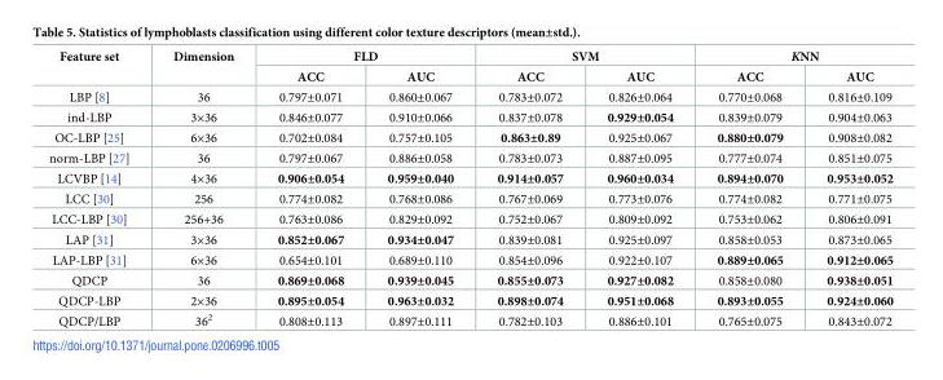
<table><thead><tr><td rowspan="2">Feature set</td><td rowspan="2">Dimension</td><td colspan="2">FLD</td><td colspan="2">SVM</td><td colspan="2">KNN</td></tr><tr><td>ACC</td><td>AUC</td><td>ACC</td><td>AUC</td><td>ACC</td><td>AUC</td></tr></thead><tbody><tr><td>LBP [8]</td><td>36</td><td>0.797±0.071</td><td>0.860±0.067</td><td>0.783±0.072</td><td>0.826±0.064</td><td>0.770±0.068</td><td>0.816±0.109</td></tr><tr><td>ind-LBP</td><td>3×36</td><td>0.846±0.077</td><td>0.910±0.066</td><td>0.837±0.078</td><td>0.929±0.054</td><td>0.839±0.079</td><td>0.904±0.063</td></tr><tr><td>OC-LBP [25]</td><td>6×36</td><td>0.702±0.084</td><td>0.757±0.105</td><td>0.863±0.89</td><td>0.925±0.067</td><td>0.880±0.079</td><td>0.908±0.082</td></tr><tr><td>norm-LBP [27]</td><td>36</td><td>0.797±0.067</td><td>0.886±0.058</td><td>0.783±0.073</td><td>0.887±0.095</td><td>0.777±0.074</td><td>0.851±0.075</td></tr><tr><td>LCVBP [14]</td><td>4×36</td><td>0.906±0.054</td><td>0.959±0.040</td><td>0.914±0.057</td><td>0.960±0.034</td><td>0.894±0.070</td><td>0.953±0.052</td></tr><tr><td>LCC [30]</td><td>256</td><td>0.774±0.082</td><td>0.768±0.086</td><td>0.767±0.069</td><td>0.773±0.076</td><td>0.774±0.082</td><td>0.771±0.075</td></tr><tr><td>LCC-LBP [30]</td><td>256+36</td><td>0.763±0.086</td><td>0.829±0.092</td><td>0.752±0.067</td><td>0.809±0.092</td><td>0.753±0.062</td><td>0.806±0.091</td></tr><tr><td>LAP [31]</td><td>3×36</td><td>0.852±0.067</td><td>0.934±0.047</td><td>0.839±0.081</td><td>0.925±0.097</td><td>0.858±0.053</td><td>0.873±0.065</td></tr><tr><td>LAP-LBP [31]</td><td>6×36</td><td>0.654±0.101</td><td>0.689±0.110</td><td>0.854±0.096</td><td>0.922±0.107</td><td>0.889±0.065</td><td>0.912±0.065</td></tr><tr><td>QDCP</td><td>36</td><td>0.869±0.068</td><td>0.939±0.045</td><td>0.855±0.073</td><td>0.927±0.082</td><td>0.858±0.080</td><td>0.938±0.051</td></tr><tr><td>QDCP-LBP</td><td>2×36</td><td>0.895±0.054</td><td>0.963±0.032</td><td>0.898±0.074</td><td>0.951±0.068</td><td>0.893±0.055</td><td>0.924±0.060</td></tr><tr><td>QDCP/LBP</td><td>36<sup>2</sup></td><td>0.808±0.113</td><td>0.897±0.111</td><td>0.782±0.103</td><td>0.886±0.101</td><td>0.765±0.075</td><td>0.843±0.072</td></tr></tbody></table>